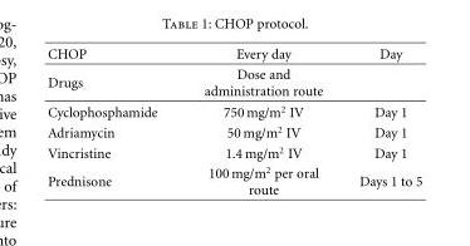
<table><thead><tr><td>CHOP</td><td>Every day</td><td>Day</td></tr></thead><tbody><tr><td>Drugs</td><td>Dose and administration route</td><td></td></tr><tr><td>Cyclophosphamide</td><td>750 mg/m<sup>2</sup> IV</td><td>Day 1</td></tr><tr><td>Adriamycin</td><td>50 mg/m<sup>2</sup> IV</td><td>Day 1</td></tr><tr><td>Vincristine</td><td>1.4 mg/m<sup>2</sup> IV</td><td>Day 1</td></tr><tr><td>Prednisone</td><td>100 mg/m<sup>2</sup> per oral route</td><td>Days 1 to 5</td></tr></tbody></table>